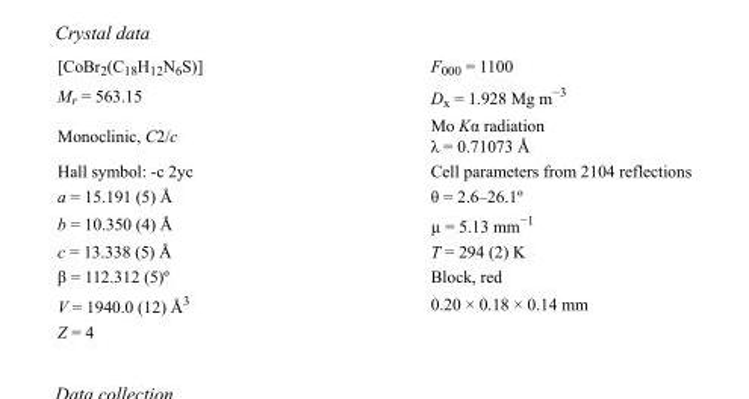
<table><tbody><tr><td>[CoBr<sub>2</sub>(C<sub>18</sub>H<sub>12</sub>N<sub>6</sub>S)]</td><td>F<sub>000</sub> = 1100</td></tr><tr><td>M<sub>r</sub> = 563.15</td><td>D<sub>x</sub> = 1.928 Mg m<sup>−3</sup></td></tr><tr><td>Monoclinic, C2/c</td><td>Mo Kα radiation λ = 0.71073 Å</td></tr><tr><td>Hall symbol: -c 2yc</td><td>Cell parameters from 2104 reflections</td></tr><tr><td>a = 15.191 (5) Å</td><td>θ = 2.6–26.1º</td></tr><tr><td>b = 10.350 (4) Å</td><td>µ = 5.13 mm<sup>−1</sup></td></tr><tr><td>c = 13.338 (5) Å</td><td>T = 294 (2) K</td></tr><tr><td>β = 112.312 (5)º</td><td>Block, red</td></tr><tr><td>V = 1940.0 (12) Å<sup>3</sup></td><td>0.20 × 0.18 × 0.14 mm</td></tr><tr><td>Z = 4</td><td></td></tr></tbody></table>